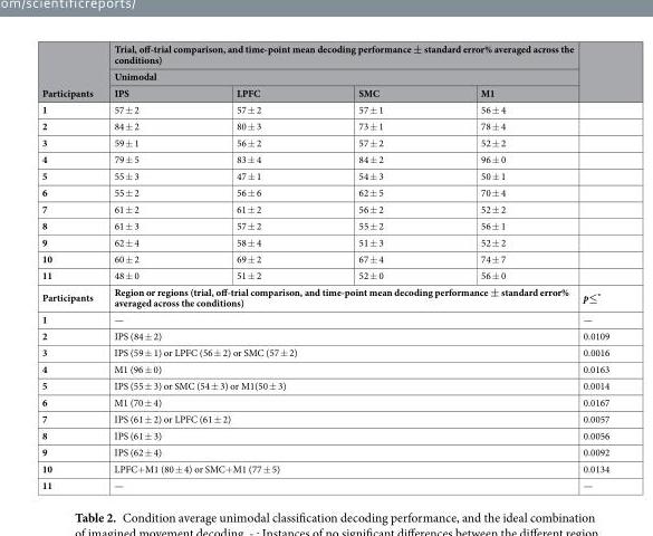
<table><thead><tr><td rowspan="3">Participants</td><td rowspan="2" colspan="4">Trial, off-trial comparison, and time-point mean decoding performance ± standard error% averaged across the conditions) Unimodal</td><td rowspan="3"></td></tr><tr></tr><tr><td>IPS</td><td>LPFC</td><td>SMC</td><td>M1</td></tr></thead><tbody><tr><td>1</td><td>57 ± 2</td><td>57 ± 2</td><td>57 ± 1</td><td>56 ± 4</td><td></td></tr><tr><td>2</td><td>84 ± 2</td><td>80 ± 3</td><td>73 ± 1</td><td>78 ± 4</td><td></td></tr><tr><td>3</td><td>59 ± 1</td><td>56 ± 2</td><td>57 ± 2</td><td>52 ± 2</td><td></td></tr><tr><td>4</td><td>79 ± 5</td><td>83 ± 4</td><td>84 ± 2</td><td>96 ± 0</td><td></td></tr><tr><td>5</td><td>55 ± 3</td><td>47 ± 1</td><td>54 ± 3</td><td>50 ± 1</td><td></td></tr><tr><td>6</td><td>55 ± 2</td><td>56 ± 6</td><td>62 ± 5</td><td>70 ± 4</td><td></td></tr><tr><td>7</td><td>61 ± 2</td><td>61 ± 2</td><td>56 ± 2</td><td>52 ± 2</td><td></td></tr><tr><td>8</td><td>61 ± 3</td><td>57 ± 2</td><td>55 ± 2</td><td>56 ± 1</td><td></td></tr><tr><td>9</td><td>62 ± 4</td><td>58 ± 4</td><td>51 ± 3</td><td>52 ± 2</td><td></td></tr><tr><td>10</td><td>60 ± 2</td><td>69 ± 2</td><td>67 ± 4</td><td>74 ± 7</td><td></td></tr><tr><td>11</td><td>48 ± 0</td><td>51 ± 2</td><td>52 ± 0</td><td>56 ± 0</td><td></td></tr><tr><td>Participants</td><td colspan="4">Region or regions (trial, off-trial comparison, and time-point mean decoding performance ± standard error% averaged across the conditions)</td><td>p≤*</td></tr><tr><td>1</td><td colspan="4">—</td><td>—</td></tr><tr><td>2</td><td colspan="4">IPS (84 ± 2)</td><td>0.0109</td></tr><tr><td>3</td><td colspan="4">IPS (59 ± 1) or LPFC (56 ± 2) or SMC (57 ± 2)</td><td>0.0016</td></tr><tr><td>4</td><td colspan="4">M1 (96 ± 0)</td><td>0.0163</td></tr><tr><td>5</td><td colspan="4">IPS (55 ± 3) or SMC (54 ± 3) or M1(50 ± 3)</td><td>0.0014</td></tr><tr><td>6</td><td colspan="4">M1 (70 ± 4)</td><td>0.0167</td></tr><tr><td>7</td><td colspan="4">IPS (61 ± 2) or LPFC (61 ± 2)</td><td>0.0057</td></tr><tr><td>8</td><td colspan="4">IPS (61 ± 3)</td><td>0.0056</td></tr><tr><td>9</td><td colspan="4">IPS (62 ± 4)</td><td>0.0092</td></tr><tr><td>10</td><td colspan="4">LPFC+M1 (80 ± 4) or SMC+M1 (77 ± 5)</td><td>0.0134</td></tr><tr><td>11</td><td colspan="4">—</td><td>—</td></tr></tbody></table>